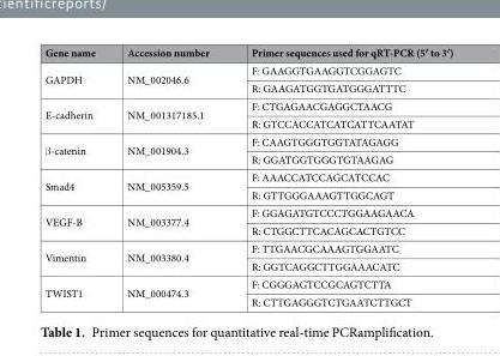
<table><thead><tr><td>Gene name</td><td>Accession number</td><td>Primer sequences used for qRT-PCR (5′ to 3′)</td></tr></thead><tbody><tr><td rowspan="2">GAPDH</td><td rowspan="2">NM_002046.6</td><td>F: GAAGGTGAAGGTCGGAGTC</td></tr><tr><td>R: GAAGATGGTGATGGGATTTC</td></tr><tr><td rowspan="2">E-cadherin</td><td rowspan="2">NM_001317185.1</td><td>F: CTGAGAACGAGGCTAACG</td></tr><tr><td>R: GTCCACCATCATCATTCAATAT</td></tr><tr><td rowspan="2">β-catenin</td><td rowspan="2">NM_001904.3</td><td>F: CAAGTGGGTGGTATAGAGG</td></tr><tr><td>R: GGATGGTGGGTGTAAGAG</td></tr><tr><td rowspan="2">Smad4</td><td rowspan="2">NM_005359.5</td><td>F: AAACCATCCAGCATCCAC</td></tr><tr><td>R: GTTGGGAAAGTTGGCAGT</td></tr><tr><td rowspan="2">VEGF-B</td><td rowspan="2">NM_003377.4</td><td>F: GGAGATGTCCCTGGAAGAACA</td></tr><tr><td>R: CTGGCTTCACAGCACTGTCC</td></tr><tr><td rowspan="2">Vimentin</td><td rowspan="2">NM_003380.4</td><td>F: TTGAACGCAAAGTGGAATC</td></tr><tr><td>R: GGTCAGGCTTGGAAACATC</td></tr><tr><td rowspan="2">TWIST1</td><td rowspan="2">NM_000474.3</td><td>F: CGGGAGTCCGCAGTCTTA</td></tr><tr><td>R: CTTGAGGGTCTGAATCTTGCT</td></tr></tbody></table>